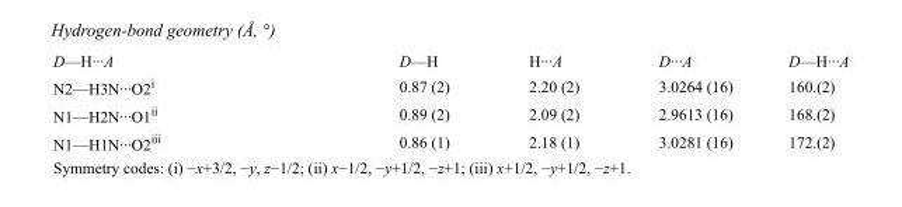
<table><tbody><tr><td>D—H···A</td><td>D—H</td><td>H···A</td><td>D···A</td><td>D—H···A</td></tr><tr><td>N2—H3N···O2<sup>i</sup></td><td>0.87 (2)</td><td>2.20 (2)</td><td>3.0264 (16)</td><td>160.(2)</td></tr><tr><td>N1—H2N···O1<sup>ii</sup></td><td>0.89 (2)</td><td>2.09 (2)</td><td>2.9613 (16)</td><td>168.(2)</td></tr><tr><td>N1—H1N···O2<sup>iii</sup></td><td>0.86 (1)</td><td>2.18 (1)</td><td>3.0281 (16)</td><td>172.(2)</td></tr></tbody></table>